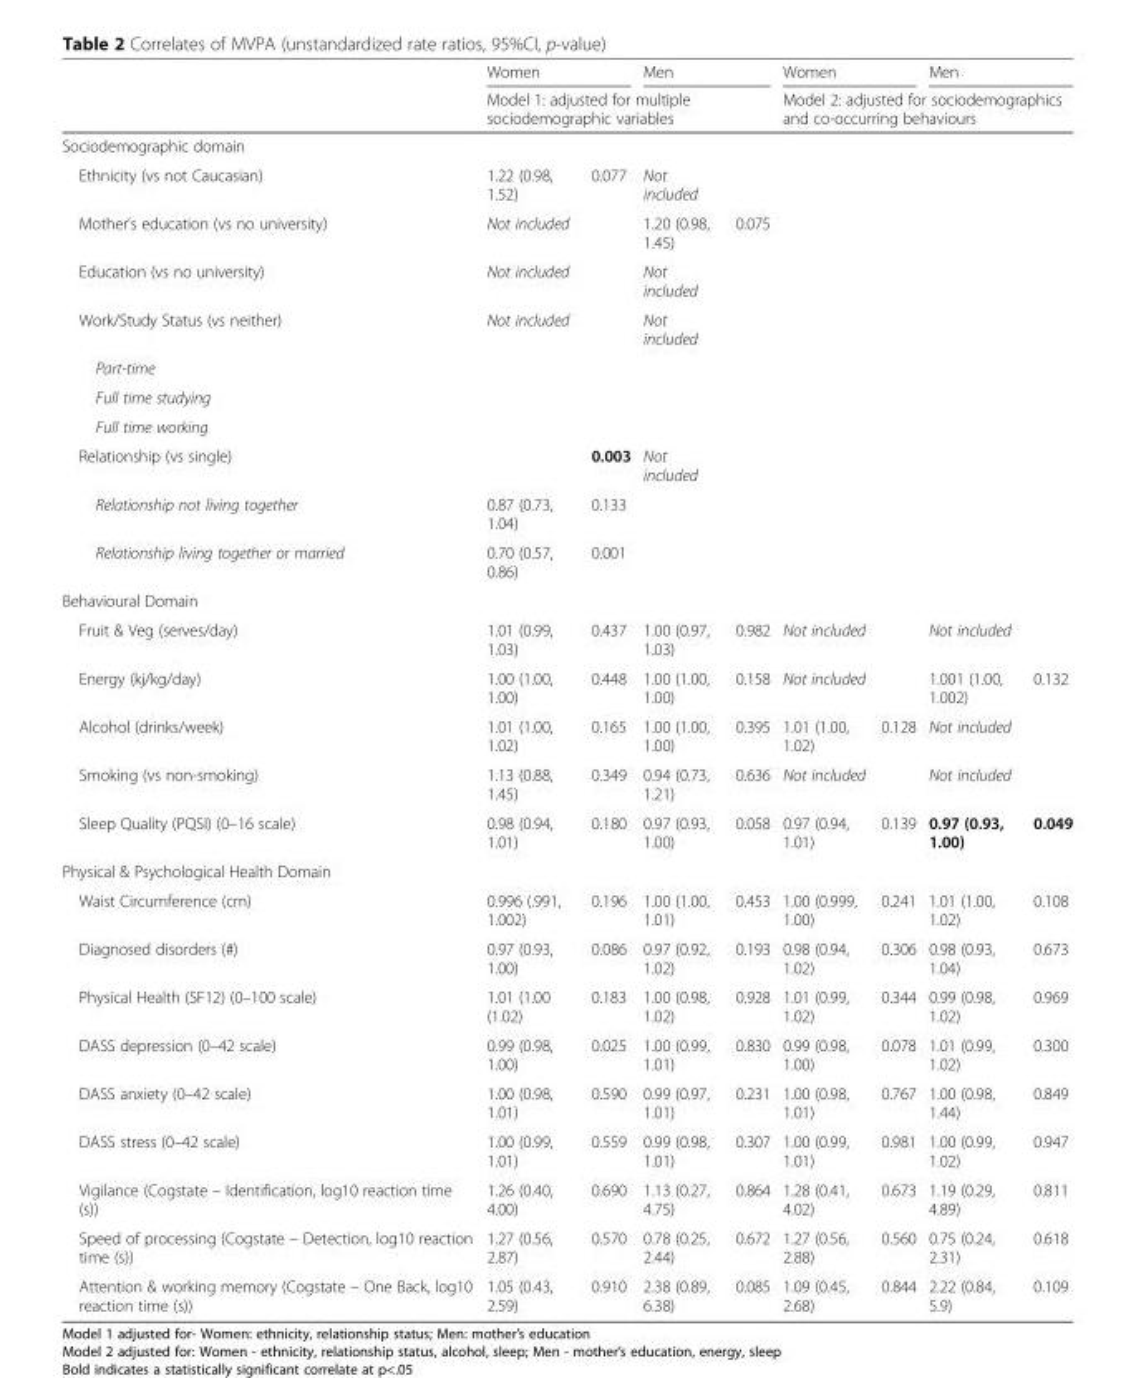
<table><thead><tr><td rowspan="2"></td><td colspan="2">Women</td><td colspan="2">Men</td><td colspan="2">Women</td><td colspan="2">Men</td></tr><tr><td colspan="4">Model 1: adjusted for multiple sociodemographic variables</td><td colspan="4">Model 2: adjusted for sociodemographics and co-occurring behaviours</td></tr><tr><td colspan="9">Sociodemographic domain</td></tr><tr><td>Ethnicity (vs not Caucasian)</td><td>1.22 (0.98, 1.52)</td><td>0.077</td><td>Not included</td><td></td><td></td><td></td><td></td><td></td></tr></thead><tbody><tr><td>Mother’s education (vs no university)</td><td>Not included</td><td></td><td>1.20 (0.98, 1.45)</td><td>0.075</td><td></td><td></td><td></td><td></td></tr><tr><td>Education (vs no university)</td><td>Not included</td><td></td><td>Not included</td><td></td><td></td><td></td><td></td><td></td></tr><tr><td>Work/Study Status (vs neither)</td><td>Not included</td><td></td><td>Not included</td><td></td><td></td><td></td><td></td><td></td></tr><tr><td colspan="9">Part-time</td></tr><tr><td colspan="9">Full time studying</td></tr><tr><td colspan="9">Full time working</td></tr><tr><td>Relationship (vs single)</td><td></td><td>0.003</td><td>Not included</td><td></td><td></td><td></td><td></td><td></td></tr><tr><td>Relationship not living together</td><td>0.87 (0.73, 1.04)</td><td>0.133</td><td></td><td></td><td></td><td></td><td></td><td></td></tr><tr><td>Relationship living together or married</td><td>0.70 (0.57, 0.86)</td><td>0.001</td><td></td><td></td><td></td><td></td><td></td><td></td></tr><tr><td colspan="9">Behavioural Domain</td></tr><tr><td>Fruit &amp; Veg (serves/day)</td><td>1.01 (0.99, 1.03)</td><td>0.437</td><td>1.00 (0.97, 1.03)</td><td>0.982</td><td>Not included</td><td></td><td>Not included</td><td></td></tr><tr><td>Energy (kj/kg/day)</td><td>1.00 (1.00, 1.00)</td><td>0.448</td><td>1.00 (1.00, 1.00)</td><td>0.158</td><td>Not included</td><td></td><td>1.001 (1.00, 1.002)</td><td>0.132</td></tr><tr><td>Alcohol (drinks/week)</td><td>1.01 (1.00, 1.02)</td><td>0.165</td><td>1.00 (1.00, 1.00)</td><td>0.395</td><td>1.01 (1.00, 1.02)</td><td>0.128</td><td>Not included</td><td></td></tr><tr><td>Smoking (vs non-smoking)</td><td>1.13 (0.88, 1.45)</td><td>0.349</td><td>0.94 (0.73, 1.21)</td><td>0.636</td><td>Not included</td><td></td><td>Not included</td><td></td></tr><tr><td>Sleep Quality (PQSI) (0–16 scale)</td><td>0.98 (0.94, 1.01)</td><td>0.180</td><td>0.97 (0.93, 1.00)</td><td>0.058</td><td>0.97 (0.94, 1.01)</td><td>0.139</td><td>0.97 (0.93, 1.00)</td><td>0.049</td></tr><tr><td colspan="9">Physical &amp; Psychological Health Domain</td></tr><tr><td>Waist Circumference (cm)</td><td>0.996 (.991, 1.002)</td><td>0.196</td><td>1.00 (1.00, 1.01)</td><td>0.453</td><td>1.00 (0.999, 1.00)</td><td>0.241</td><td>1.01 (1.00, 1.02)</td><td>0.108</td></tr><tr><td>Diagnosed disorders (#)</td><td>0.97 (0.93, 1.00)</td><td>0.086</td><td>0.97 (0.92, 1.02)</td><td>0.193</td><td>0.98 (0.94, 1.02)</td><td>0.306</td><td>0.98 (0.93, 1.04)</td><td>0.673</td></tr><tr><td>Physical Health (SF12) (0–100 scale)</td><td>1.01 (1.00 (1.02)</td><td>0.183</td><td>1.00 (0.98, 1.02)</td><td>0.928</td><td>1.01 (0.99, 1.02)</td><td>0.344</td><td>0.99 (0.98, 1.02)</td><td>0.969</td></tr><tr><td>DASS depression (0–42 scale)</td><td>0.99 (0.98, 1.00)</td><td>0.025</td><td>1.00 (0.99, 1.01)</td><td>0.830</td><td>0.99 (0.98, 1.00)</td><td>0.078</td><td>1.01 (0.99, 1.02)</td><td>0.300</td></tr><tr><td>DASS anxiety (0–42 scale)</td><td>1.00 (0.98, 1.01)</td><td>0.590</td><td>0.99 (0.97, 1.01)</td><td>0.231</td><td>1.00 (0.98, 1.01)</td><td>0.767</td><td>1.00 (0.98, 1.44)</td><td>0.849</td></tr><tr><td>DASS stress (0–42 scale)</td><td>1.00 (0.99, 1.01)</td><td>0.559</td><td>0.99 (0.98, 1.01)</td><td>0.307</td><td>1.00 (0.99, 1.01)</td><td>0.981</td><td>1.00 (0.99, 1.02)</td><td>0.947</td></tr><tr><td>Vigilance (Cogstate – Identification, log10 reaction time (s))</td><td>1.26 (0.40, 4.00)</td><td>0.690</td><td>1.13 (0.27, 4.75)</td><td>0.864</td><td>1.28 (0.41, 4.02)</td><td>0.673</td><td>1.19 (0.29, 4.89)</td><td>0.811</td></tr><tr><td>Speed of processing (Cogstate – Detection, log10 reaction time (s))</td><td>1.27 (0.56, 2.87)</td><td>0.570</td><td>0.78 (0.25, 2.44)</td><td>0.672</td><td>1.27 (0.56, 2.88)</td><td>0.560</td><td>0.75 (0.24, 2.31)</td><td>0.618</td></tr><tr><td>Attention &amp; working memory (Cogstate – One Back, log10 reaction time (s))</td><td>1.05 (0.43, 2.59)</td><td>0.910</td><td>2.38 (0.89, 6.38)</td><td>0.085</td><td>1.09 (0.45, 2.68)</td><td>0.844</td><td>2.22 (0.84, 5.9)</td><td>0.109</td></tr></tbody></table>